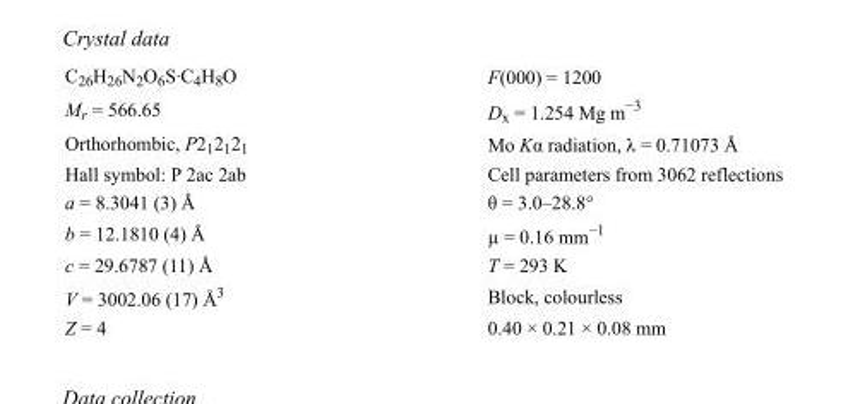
<table><tbody><tr><td>C<sub>26</sub>H<sub>26</sub>N<sub>2</sub>O<sub>6</sub>S·C<sub>4</sub>H<sub>8</sub>O</td><td>F(000) = 1200</td></tr><tr><td>M<sub>r</sub> = 566.65</td><td>D<sub>x</sub> = 1.254 Mg m<sup>−3</sup></td></tr><tr><td>Orthorhombic, P2<sub>1</sub>2<sub>1</sub>2<sub>1</sub></td><td>Mo Kα radiation, λ = 0.71073 Å</td></tr><tr><td>Hall symbol: P 2ac 2ab</td><td>Cell parameters from 3062 reflections</td></tr><tr><td>a = 8.3041 (3) Å</td><td>θ = 3.0–28.8°</td></tr><tr><td>b = 12.1810 (4) Å</td><td>µ = 0.16 mm<sup>−1</sup></td></tr><tr><td>c = 29.6787 (11) Å</td><td>T = 293 K</td></tr><tr><td>V = 3002.06 (17) Å<sup>3</sup></td><td>Block, colourless</td></tr><tr><td>Z = 4</td><td>0.40 × 0.21 × 0.08 mm</td></tr></tbody></table>